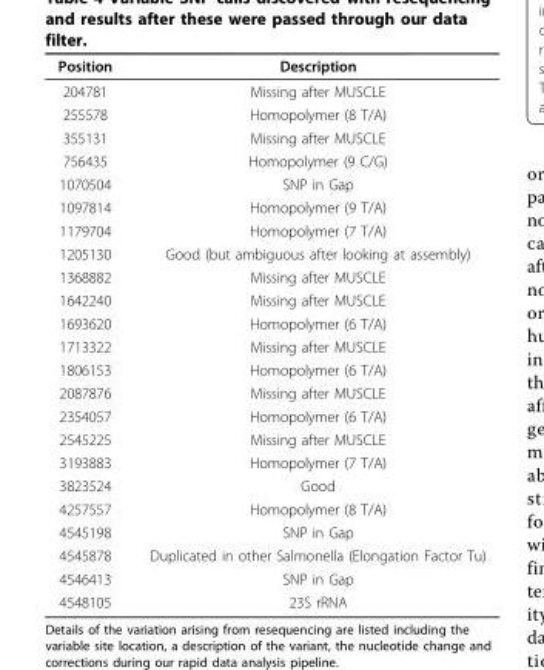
<table><thead><tr><td>Position</td><td>Description</td></tr></thead><tbody><tr><td>204781</td><td>Missing after MUSCLE</td></tr><tr><td>255578</td><td>Homopolymer (8 T/A)</td></tr><tr><td>355131</td><td>Missing after MUSCLE</td></tr><tr><td>756435</td><td>Homopolymer (9 C/G)</td></tr><tr><td>1070504</td><td>SNP in Gap</td></tr><tr><td>1097814</td><td>Homopolymer (9 T/A)</td></tr><tr><td>1179704</td><td>Homopolymer (7 T/A)</td></tr><tr><td>1205130</td><td>Good (but ambiguous after looking at assembly)</td></tr><tr><td>1368882</td><td>Missing after MUSCLE</td></tr><tr><td>1642240</td><td>Missing after MUSCLE</td></tr><tr><td>1693620</td><td>Homopolymer (6 T/A)</td></tr><tr><td>1713322</td><td>Missing after MUSCLE</td></tr><tr><td>1806153</td><td>Homopolymer (6 T/A)</td></tr><tr><td>2087876</td><td>Missing after MUSCLE</td></tr><tr><td>2354057</td><td>Homopolymer (6 T/A)</td></tr><tr><td>2545225</td><td>Missing after MUSCLE</td></tr><tr><td>3193883</td><td>Homopolymer (7 T/A)</td></tr><tr><td>3823524</td><td>Good</td></tr><tr><td>4257557</td><td>Homopolymer (8 T/A)</td></tr><tr><td>4545198</td><td>SNP in Gap</td></tr><tr><td>4545878</td><td>Duplicated in other Salmonella (Elongation Factor Tu)</td></tr><tr><td>4546413</td><td>SNP in Gap</td></tr><tr><td>4548105</td><td>23S rRNA</td></tr></tbody></table>